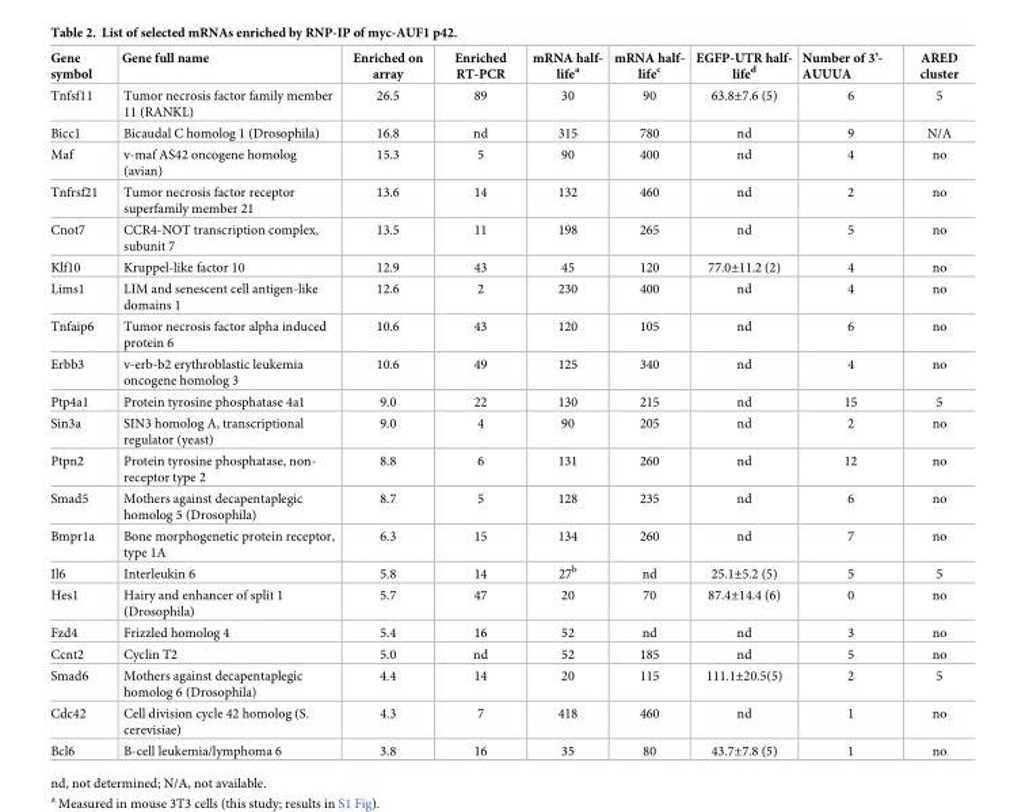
<table><thead><tr><td>Gene symbol</td><td>Gene full name</td><td>Enriched on array</td><td>Enriched RT-PCR</td><td>mRNA half- life<sup>a</sup></td><td>mRNA half- life<sup>c</sup></td><td>EGFP-UTR half- life<sup>d</sup></td><td>Number of 3’- AUUUA</td><td>ARED cluster</td></tr></thead><tbody><tr><td>Tnfsf11</td><td>Tumor necrosis factor family member 11 (RANKL)</td><td>26.5</td><td>89</td><td>30</td><td>90</td><td>63.8±7.6 (5)</td><td>6</td><td>5</td></tr><tr><td>Bicc1</td><td>Bicaudal C homolog 1 (Drosophila)</td><td>16.8</td><td>nd</td><td>315</td><td>780</td><td>nd</td><td>9</td><td>N/A</td></tr><tr><td>Maf</td><td>v-maf AS42 oncogene homolog (avian)</td><td>15.3</td><td>5</td><td>90</td><td>400</td><td>nd</td><td>4</td><td>no</td></tr><tr><td>Tnfrsf21</td><td>Tumor necrosis factor receptor superfamily member 21</td><td>13.6</td><td>14</td><td>132</td><td>460</td><td>nd</td><td>2</td><td>no</td></tr><tr><td>Cnot7</td><td>CCR4-NOT transcription complex, subunit 7</td><td>13.5</td><td>11</td><td>198</td><td>265</td><td>nd</td><td>5</td><td>no</td></tr><tr><td>Klf10</td><td>Kruppel-like factor 10</td><td>12.9</td><td>43</td><td>45</td><td>120</td><td>77.0±11.2 (2)</td><td>4</td><td>no</td></tr><tr><td>Lims1</td><td>LIM and senescent cell antigen-like domains 1</td><td>12.6</td><td>2</td><td>230</td><td>400</td><td>nd</td><td>4</td><td>no</td></tr><tr><td>Tnfaip6</td><td>Tumor necrosis factor alpha induced protein 6</td><td>10.6</td><td>43</td><td>120</td><td>105</td><td>nd</td><td>6</td><td>no</td></tr><tr><td>Erbb3</td><td>v-erb-b2 erythroblastic leukemia oncogene homolog 3</td><td>10.6</td><td>49</td><td>125</td><td>340</td><td>nd</td><td>4</td><td>no</td></tr><tr><td>Ptp4a1</td><td>Protein tyrosine phosphatase 4a1</td><td>9.0</td><td>22</td><td>130</td><td>215</td><td>nd</td><td>15</td><td>5</td></tr><tr><td>Sin3a</td><td>SIN3 homolog A, transcriptional regulator (yeast)</td><td>9.0</td><td>4</td><td>90</td><td>205</td><td>nd</td><td>2</td><td>no</td></tr><tr><td>Ptpn2</td><td>Protein tyrosine phosphatase, non- receptor type 2</td><td>8.8</td><td>6</td><td>131</td><td>260</td><td>nd</td><td>12</td><td>no</td></tr><tr><td>Smad5</td><td>Mothers against decapentaplegic homolog 5 (Drosophila)</td><td>8.7</td><td>5</td><td>128</td><td>235</td><td>nd</td><td>6</td><td>no</td></tr><tr><td>Bmpr1a</td><td>Bone morphogenetic protein receptor, type 1A</td><td>6.3</td><td>15</td><td>134</td><td>260</td><td>nd</td><td>7</td><td>no</td></tr><tr><td>Il6</td><td>Interleukin 6</td><td>5.8</td><td>14</td><td>27<sup>b</sup></td><td>nd</td><td>25.1±5.2 (5)</td><td>5</td><td>5</td></tr><tr><td>Hes1</td><td>Hairy and enhancer of split 1 (Drosophila)</td><td>5.7</td><td>47</td><td>20</td><td>70</td><td>87.4±14.4 (6)</td><td>0</td><td>no</td></tr><tr><td>Fzd4</td><td>Frizzled homolog 4</td><td>5.4</td><td>16</td><td>52</td><td>nd</td><td>nd</td><td>3</td><td>no</td></tr><tr><td>Ccnt2</td><td>Cyclin T2</td><td>5.0</td><td>nd</td><td>52</td><td>185</td><td>nd</td><td>5</td><td>no</td></tr><tr><td>Smad6</td><td>Mothers against decapentaplegic homolog 6 (Drosophila)</td><td>4.4</td><td>14</td><td>20</td><td>115</td><td>111.1±20.5(5)</td><td>2</td><td>5</td></tr><tr><td>Cdc42</td><td>Cell division cycle 42 homolog (S. cerevisiae)</td><td>4.3</td><td>7</td><td>418</td><td>460</td><td>nd</td><td>1</td><td>no</td></tr><tr><td>Bcl6</td><td>B-cell leukemia/lymphoma 6</td><td>3.8</td><td>16</td><td>35</td><td>80</td><td>43.7±7.8 (5)</td><td>1</td><td>no</td></tr></tbody></table>